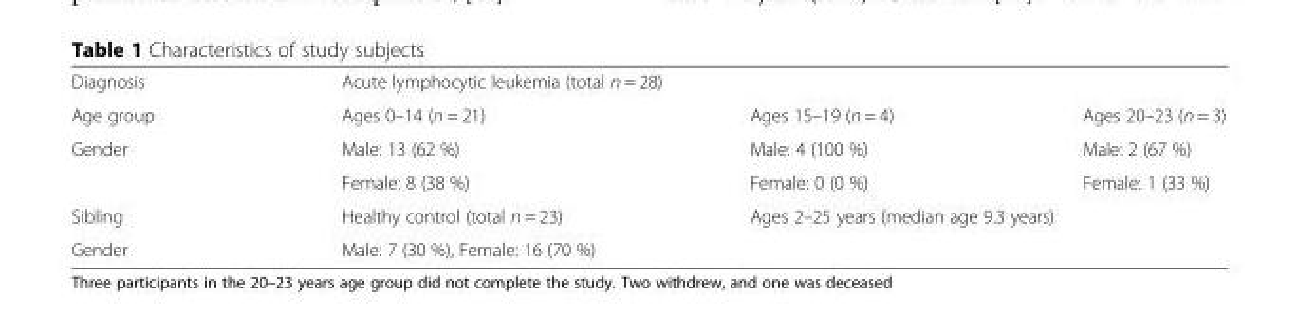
<table><tbody><tr><td>Diagnosis</td><td colspan="3">Acute lymphocytic leukemia (total n = 28)</td></tr><tr><td>Age group</td><td>Ages 0–14 (n = 21)</td><td>Ages 15–19 (n = 4)</td><td>Ages 20–23 (n = 3)</td></tr><tr><td rowspan="2">Gender</td><td>Male: 13 (62 %)</td><td>Male: 4 (100 %)</td><td>Male: 2 (67 %)</td></tr><tr><td>Female: 8 (38 %)</td><td>Female: 0 (0 %)</td><td>Female: 1 (33 %)</td></tr><tr><td>Sibling</td><td>Healthy control (total n = 23)</td><td colspan="2">Ages 2–25 years (median age 9.3 years)</td></tr><tr><td>Gender</td><td colspan="3">Male: 7 (30 %), Female: 16 (70 %)</td></tr></tbody></table>